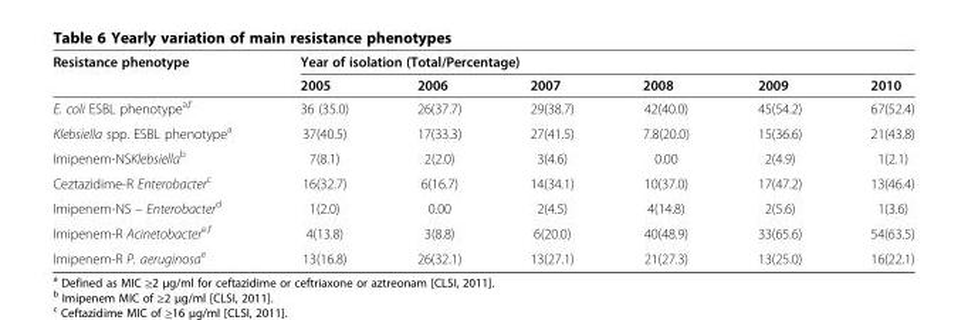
<table><thead><tr><td rowspan="2">Resistance phenotype</td><td colspan="6">Year of isolation (Total/Percentage)</td></tr><tr><td>2005</td><td>2006</td><td>2007</td><td>2008</td><td>2009</td><td>2010</td></tr></thead><tbody><tr><td>E. coli ESBL phenotype<sup>a,f</sup></td><td>36 (35.0)</td><td>26(37.7)</td><td>29(38.7)</td><td>42(40.0)</td><td>45(54.2)</td><td>67(52.4)</td></tr><tr><td>Klebsiella spp. ESBL phenotype<sup>a</sup></td><td>37(40.5)</td><td>17(33.3)</td><td>27(41.5)</td><td>7.8(20.0)</td><td>15(36.6)</td><td>21(43.8)</td></tr><tr><td>Imipenem-NSKlebsiella<sup>b</sup></td><td>7(8.1)</td><td>2(2.0)</td><td>3(4.6)</td><td>0.00</td><td>2(4.9)</td><td>1(2.1)</td></tr><tr><td>Ceztazidime-R Enterobacter<sup>c</sup></td><td>16(32.7)</td><td>6(16.7)</td><td>14(34.1)</td><td>10(37.0)</td><td>17(47.2)</td><td>13(46.4)</td></tr><tr><td>Imipenem-NS – Enterobacter<sup>d</sup></td><td>1(2.0)</td><td>0.00</td><td>2(4.5)</td><td>4(14.8)</td><td>2(5.6)</td><td>1(3.6)</td></tr><tr><td>Imipenem-R Acinetobacter<sup>e,f</sup></td><td>4(13.8)</td><td>3(8.8)</td><td>6(20.0)</td><td>40(48.9)</td><td>33(65.6)</td><td>54(63.5)</td></tr><tr><td>Imipenem-R P. aeruginosa<sup>e</sup></td><td>13(16.8)</td><td>26(32.1)</td><td>13(27.1)</td><td>21(27.3)</td><td>13(25.0)</td><td>16(22.1)</td></tr></tbody></table>